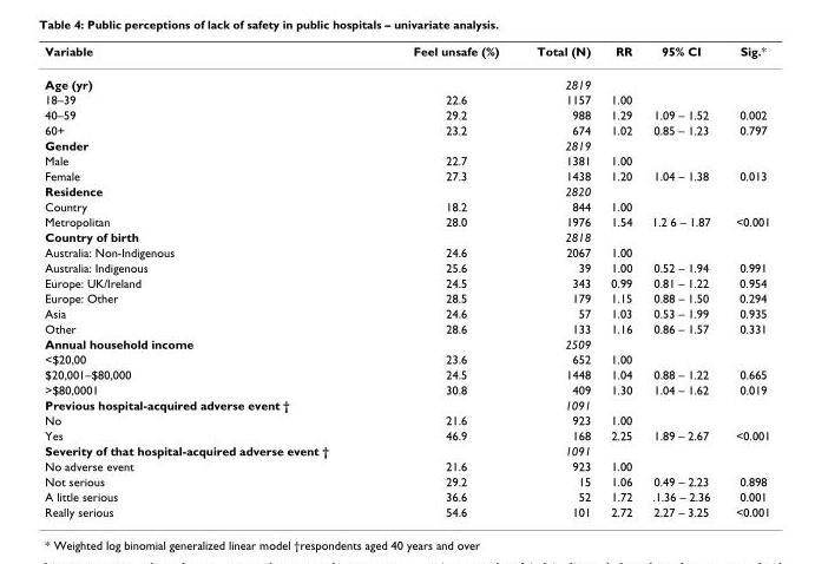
<table><thead><tr><td>Variable</td><td>Feel unsafe (%)</td><td>Total (N)</td><td>RR</td><td>95% CI</td><td>Sig.*</td></tr></thead><tbody><tr><td>Age (yr)</td><td></td><td>2819</td><td></td><td></td><td></td></tr><tr><td>18–39</td><td>22.6</td><td>1157</td><td>1.00</td><td></td><td></td></tr><tr><td>40–59</td><td>29.2</td><td>988</td><td>1.29</td><td>1.09 – 1.52</td><td>0.002</td></tr><tr><td>60+</td><td>23.2</td><td>674</td><td>1.02</td><td>0.85 – 1.23</td><td>0.797</td></tr><tr><td>Gender</td><td></td><td>2819</td><td></td><td></td><td></td></tr><tr><td>Male</td><td>22.7</td><td>1381</td><td>1.00</td><td></td><td></td></tr><tr><td>Female</td><td>27.3</td><td>1438</td><td>1.20</td><td>1.04 – 1.38</td><td>0.013</td></tr><tr><td>Residence</td><td></td><td>2820</td><td></td><td></td><td></td></tr><tr><td>Country</td><td>18.2</td><td>844</td><td>1.00</td><td></td><td></td></tr><tr><td>Metropolitan</td><td>28.0</td><td>1976</td><td>1.54</td><td>1.2 6 – 1.87</td><td>&lt;0.001</td></tr><tr><td>Country of birth</td><td></td><td>2818</td><td></td><td></td><td></td></tr><tr><td>Australia: Non-Indigenous</td><td>24.6</td><td>2067</td><td>1.00</td><td></td><td></td></tr><tr><td>Australia: Indigenous</td><td>25.6</td><td>39</td><td>1.00</td><td>0.52 – 1.94</td><td>0.991</td></tr><tr><td>Europe: UK/Ireland</td><td>24.5</td><td>343</td><td>0.99</td><td>0.81 – 1.22</td><td>0.954</td></tr><tr><td>Europe: Other</td><td>28.5</td><td>179</td><td>1.15</td><td>0.88 – 1.50</td><td>0.294</td></tr><tr><td>Asia</td><td>24.6</td><td>57</td><td>1.03</td><td>0.53 – 1.99</td><td>0.935</td></tr><tr><td>Other</td><td>28.6</td><td>133</td><td>1.16</td><td>0.86 – 1.57</td><td>0.331</td></tr><tr><td>Annual household income</td><td></td><td>2509</td><td></td><td></td><td></td></tr><tr><td>&lt;$20,00</td><td>23.6</td><td>652</td><td>1.00</td><td></td><td></td></tr><tr><td>$20,001–$80,000</td><td>24.5</td><td>1448</td><td>1.04</td><td>0.88 – 1.22</td><td>0.665</td></tr><tr><td>&gt;$80,0001</td><td>30.8</td><td>409</td><td>1.30</td><td>1.04 – 1.62</td><td>0.019</td></tr><tr><td>Previous hospital-acquired adverse event †</td><td></td><td>1091</td><td></td><td></td><td></td></tr><tr><td>No</td><td>21.6</td><td>923</td><td>1.00</td><td></td><td></td></tr><tr><td>Yes</td><td>46.9</td><td>168</td><td>2.25</td><td>1.89 – 2.67</td><td>&lt;0.001</td></tr><tr><td>Severity of that hospital-acquired adverse event †</td><td></td><td>1091</td><td></td><td></td><td></td></tr><tr><td>No adverse event</td><td>21.6</td><td>923</td><td>1.00</td><td></td><td></td></tr><tr><td>Not serious</td><td>29.2</td><td>15</td><td>1.06</td><td>0.49 – 2.23</td><td>0.898</td></tr><tr><td>A little serious</td><td>36.6</td><td>52</td><td>1.72</td><td>.1.36 – 2.36</td><td>0.001</td></tr><tr><td>Really serious</td><td>54.6</td><td>101</td><td>2.72</td><td>2.27 – 3.25</td><td>&lt;0.001</td></tr></tbody></table>